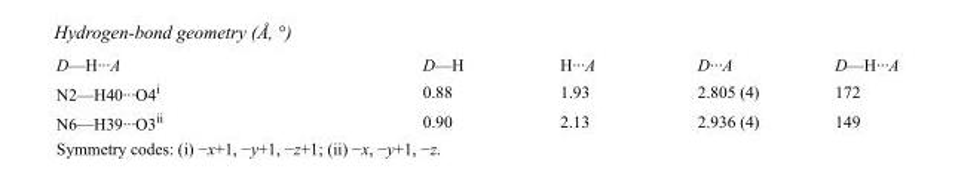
<table><tbody><tr><td>D—H···A</td><td>D—H</td><td>H···A</td><td>D···A</td><td>D—H···A</td></tr><tr><td>N2—H40···O4<sup>i</sup></td><td>0.88</td><td>1.93</td><td>2.805 (4)</td><td>172</td></tr><tr><td>N6—H39···O3<sup>ii</sup></td><td>0.90</td><td>2.13</td><td>2.936 (4)</td><td>149</td></tr></tbody></table>